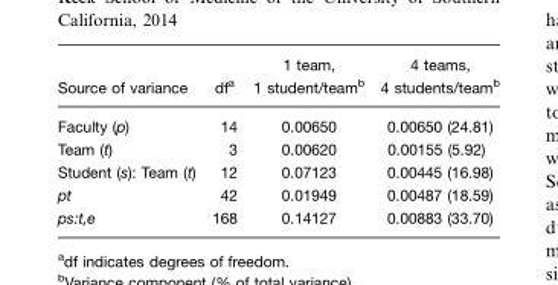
<table><thead><tr><td>Source of variance</td><td>df<sup>a</sup></td><td>1 team, 1 student/team<sup>b</sup></td><td>4 teams, 4 students/team<sup>b</sup></td></tr></thead><tbody><tr><td>Faculty (p)</td><td>14</td><td>0.00650</td><td>0.00650 (24.81)</td></tr><tr><td>Team (t)</td><td>3</td><td>0.00620</td><td>0.00155 (5.92)</td></tr><tr><td>Student (s): Team (t)</td><td>12</td><td>0.07123</td><td>0.00445 (16.98)</td></tr><tr><td>pt</td><td>42</td><td>0.01949</td><td>0.00487 (18.59)</td></tr><tr><td>ps:t,e</td><td>168</td><td>0.14127</td><td>0.00883 (33.70)</td></tr></tbody></table>